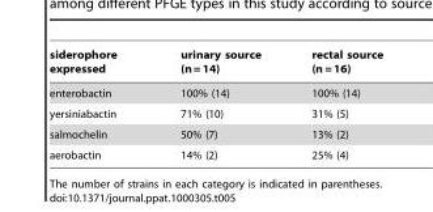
<table><thead><tr><td>siderophore expressed</td><td>urinary source (n = 14)</td><td>rectal source (n = 16)</td></tr></thead><tbody><tr><td>enterobactin</td><td>100% (14)</td><td>100% (14)</td></tr><tr><td>yersiniabactin</td><td>71% (10)</td><td>31% (5)</td></tr><tr><td>salmochelin</td><td>50% (7)</td><td>13% (2)</td></tr><tr><td>aerobactin</td><td>14% (2)</td><td>25% (4)</td></tr></tbody></table>